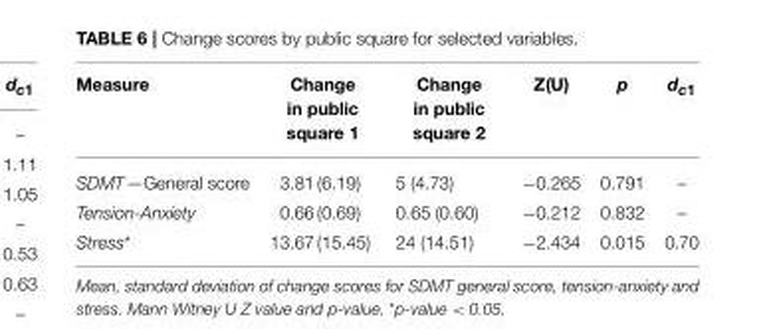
<table><thead><tr><td>Measure</td><td>Change in public square 1</td><td>Change in public square 2</td><td>Z(U)</td><td>p</td><td>d<sub>c1</sub></td></tr></thead><tbody><tr><td>SDMT—General score</td><td>3.81 (6.19)</td><td>5 (4.73)</td><td>−0.265</td><td>0.791</td><td>–</td></tr><tr><td>Tension-Anxiety</td><td>0.66 (0.69)</td><td>0.65 (0.60)</td><td>−0.212</td><td>0.832</td><td>–</td></tr><tr><td>Stress*</td><td>13.67 (15.45)</td><td>24 (14.51)</td><td>−2.434</td><td>0.015</td><td>0.70</td></tr></tbody></table>